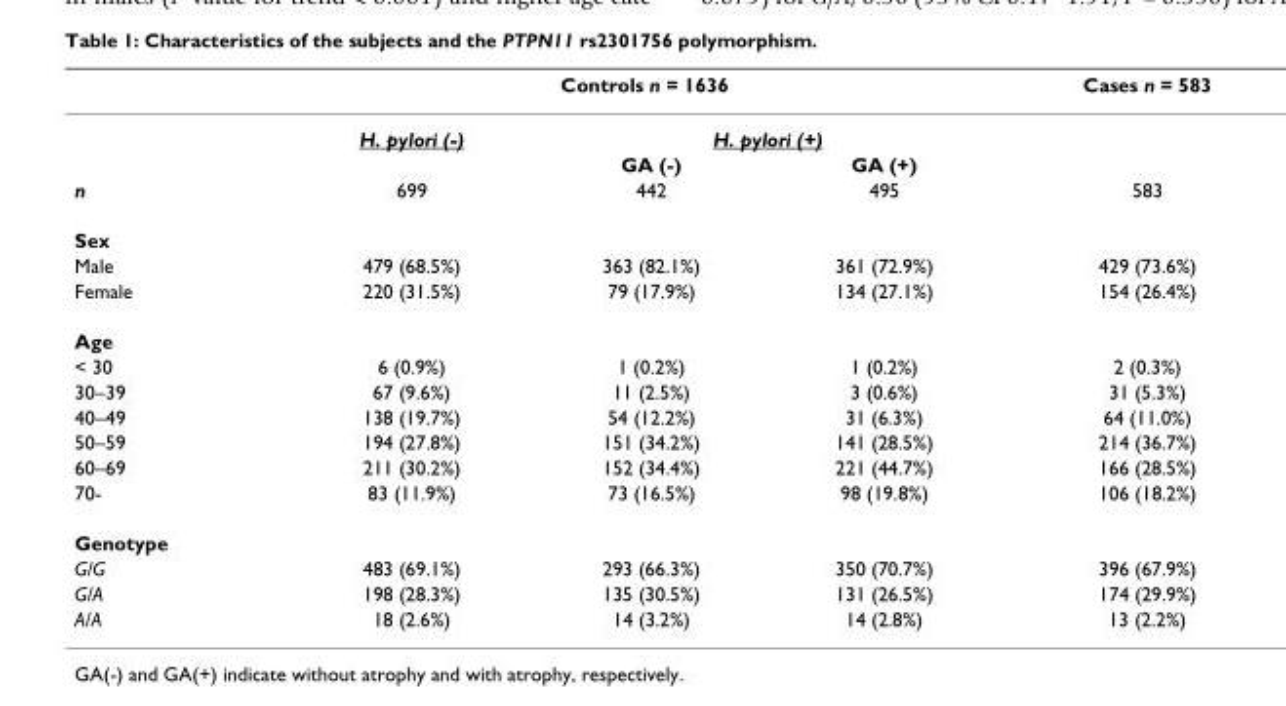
<table><thead><tr><td rowspan="3"></td><td colspan="3">Controls n = 1636</td><td rowspan="3">Cases n = 583</td></tr><tr><td rowspan="2">H. pylori (-)</td><td colspan="2">H. pylori (+)</td></tr><tr><td>GA (-)</td><td>GA (+)</td></tr></thead><tbody><tr><td>n</td><td>699</td><td>442</td><td>495</td><td>583</td></tr><tr><td colspan="5">Sex</td></tr><tr><td>Male</td><td>479 (68.5%)</td><td>363 (82.1%)</td><td>361 (72.9%)</td><td>429 (73.6%)</td></tr><tr><td>Female</td><td>220 (31.5%)</td><td>79 (17.9%)</td><td>134 (27.1%)</td><td>154 (26.4%)</td></tr><tr><td colspan="5">Age</td></tr><tr><td>&lt; 30</td><td>6 (0.9%)</td><td>1 (0.2%)</td><td>1 (0.2%)</td><td>2 (0.3%)</td></tr><tr><td>30–39</td><td>67 (9.6%)</td><td>11 (2.5%)</td><td>3 (0.6%)</td><td>31 (5.3%)</td></tr><tr><td>40–49</td><td>138 (19.7%)</td><td>54 (12.2%)</td><td>31 (6.3%)</td><td>64 (11.0%)</td></tr><tr><td>50–59</td><td>194 (27.8%)</td><td>151 (34.2%)</td><td>141 (28.5%)</td><td>214 (36.7%)</td></tr><tr><td>60–69</td><td>211 (30.2%)</td><td>152 (34.4%)</td><td>221 (44.7%)</td><td>166 (28.5%)</td></tr><tr><td>70-</td><td>83 (11.9%)</td><td>73 (16.5%)</td><td>98 (19.8%)</td><td>106 (18.2%)</td></tr><tr><td colspan="5">Genotype</td></tr><tr><td>G/G</td><td>483 (69.1%)</td><td>293 (66.3%)</td><td>350 (70.7%)</td><td>396 (67.9%)</td></tr><tr><td>G/A</td><td>198 (28.3%)</td><td>135 (30.5%)</td><td>131 (26.5%)</td><td>174 (29.9%)</td></tr><tr><td>A/A</td><td>18 (2.6%)</td><td>14 (3.2%)</td><td>14 (2.8%)</td><td>13 (2.2%)</td></tr></tbody></table>